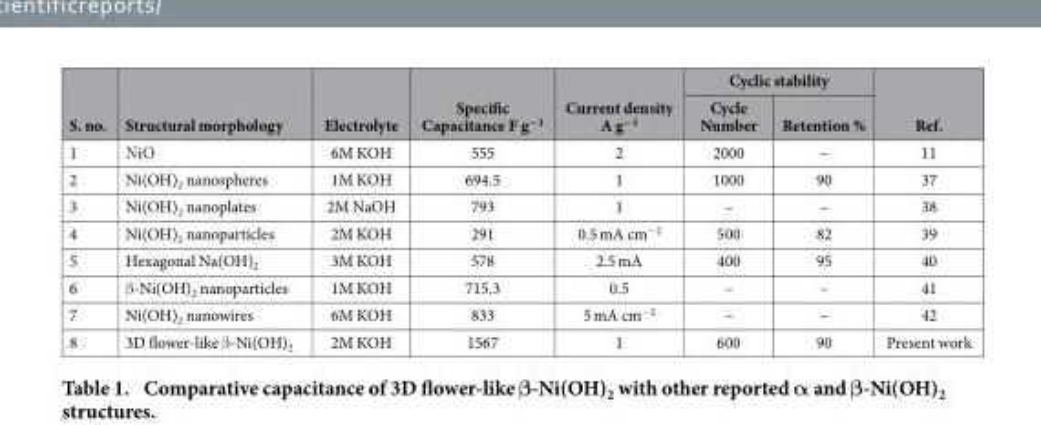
<table><thead><tr><td rowspan="2">S. no.</td><td rowspan="2">Structural morphology</td><td rowspan="2">Electrolyte</td><td rowspan="2">Specific Capacitance F g<sup>−1</sup></td><td rowspan="2">Current density A g<sup>−1</sup></td><td colspan="2">Cyclic stability</td><td rowspan="2">Ref.</td></tr><tr><td>Cycle Number</td><td>Retention %</td></tr></thead><tbody><tr><td>1</td><td>NiO</td><td>6M KOH</td><td>555</td><td>2</td><td>2000</td><td>–</td><td>11</td></tr><tr><td>2</td><td>Ni(OH)<sub>2</sub> nanospheres</td><td>1M KOH</td><td>694.5</td><td>1</td><td>1000</td><td>90</td><td>37</td></tr><tr><td>3</td><td>Ni(OH)<sub>2</sub> nanoplates</td><td>2M NaOH</td><td>793</td><td>1</td><td>–</td><td>–</td><td>38</td></tr><tr><td>4</td><td>Ni(OH)<sub>2</sub> nanoparticles</td><td>2M KOH</td><td>291</td><td>0.5 mA cm<sup>−2</sup></td><td>500</td><td>82</td><td>39</td></tr><tr><td>5</td><td>Hexagonal Na(OH)<sub>2</sub></td><td>3M KOH</td><td>578</td><td>2.5 mA</td><td>400</td><td>95</td><td>40</td></tr><tr><td>6</td><td>β -Ni(OH)<sub>2</sub> nanoparticles</td><td>1M KOH</td><td>715.3</td><td>0.5</td><td>–</td><td>–</td><td>41</td></tr><tr><td>7</td><td>Ni(OH)<sub>2</sub> nanowires</td><td>6M KOH</td><td>833</td><td>5 mA cm<sup>−2</sup></td><td>–</td><td>–</td><td>42</td></tr><tr><td>8</td><td>3D flower-like β -Ni(OH)<sub>2</sub></td><td>2M KOH</td><td>1567</td><td>1</td><td>600</td><td>90</td><td>Present work</td></tr></tbody></table>